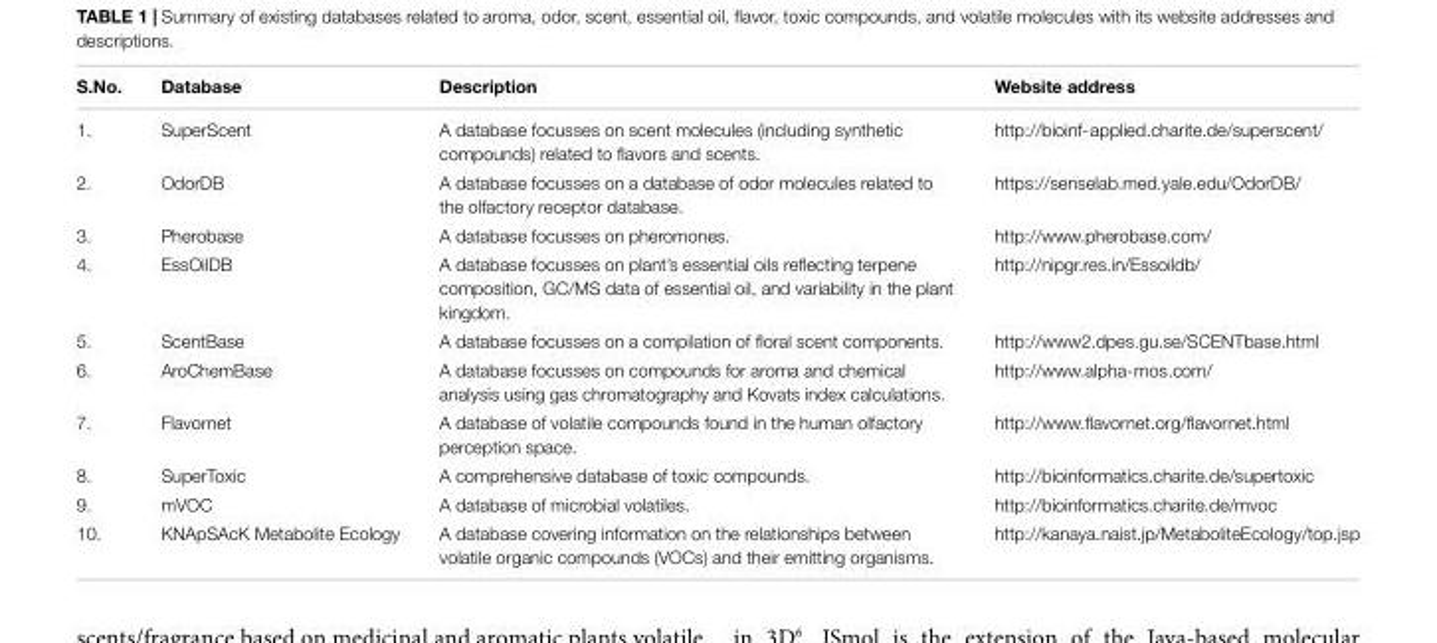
<table><thead><tr><td>S.No.</td><td>Database</td><td>Description</td><td>Website address</td></tr></thead><tbody><tr><td>1.</td><td>SuperScent</td><td>A database focusses on scent molecules (including synthetic compounds) related to flavors and scents.</td><td>http://bioinf-applied.charite.de/superscent/</td></tr><tr><td>2.</td><td>OdorDB</td><td>A database focusses on a database of odor molecules related to the olfactory receptor database.</td><td>https://senselab.med.yale.edu/OdorDB/</td></tr><tr><td>3.</td><td>Pherobase</td><td>A database focusses on pheromones.</td><td>http://www.pherobase.com/</td></tr><tr><td>4.</td><td>EssOilDB</td><td>A database focusses on plant’s essential oils reflecting terpene composition, GC/MS data of essential oil, and variability in the plant kingdom.</td><td>http://nipgr.res.in/Essoildb/</td></tr><tr><td>5.</td><td>ScentBase</td><td>A database focusses on a compilation of floral scent components.</td><td>http://www2.dpes.gu.se/SCENTbase.html</td></tr><tr><td>6.</td><td>AroChemBase</td><td>A database focusses on compounds for aroma and chemical analysis using gas chromatography and Kovats index calculations.</td><td>http://www.alpha-mos.com/</td></tr><tr><td>7.</td><td>Flavornet</td><td>A database of volatile compounds found in the human olfactory perception space.</td><td>http://www.flavornet.org/flavornet.html</td></tr><tr><td>8.</td><td>SuperToxic</td><td>A comprehensive database of toxic compounds.</td><td>http://bioinformatics.charite.de/supertoxic</td></tr><tr><td>9.</td><td>mVOC</td><td>A database of microbial volatiles.</td><td>http://bioinformatics.charite.de/mvoc</td></tr><tr><td>10.</td><td>KNApSAcK Metabolite Ecology</td><td>A database covering information on the relationships between volatile organic compounds (VOCs) and their emitting organisms.</td><td>http://kanaya.naist.jp/MetaboliteEcology/top.jsp</td></tr></tbody></table>